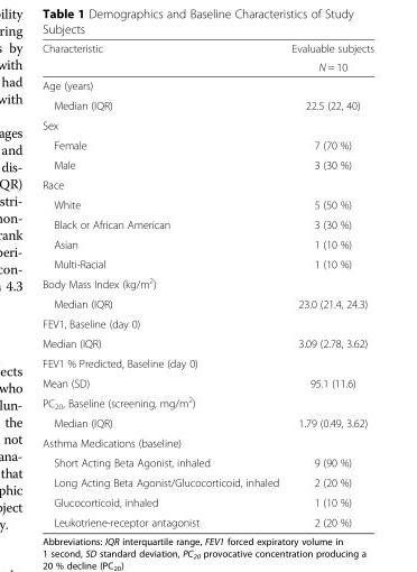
<table><thead><tr><td rowspan="2">Characteristic</td><td rowspan="2">Evaluable subjects N = 10</td></tr><tr></tr></thead><tbody><tr><td colspan="2">Age (years)</td></tr><tr><td>Median (IQR)</td><td>22.5 (22, 40)</td></tr><tr><td colspan="2">Sex</td></tr><tr><td>Female</td><td>7 (70 %)</td></tr><tr><td>Male</td><td>3 (30 %)</td></tr><tr><td colspan="2">Race</td></tr><tr><td>White</td><td>5 (50 %)</td></tr><tr><td>Black or African American</td><td>3 (30 %)</td></tr><tr><td>Asian</td><td>1 (10 %)</td></tr><tr><td>Multi-Racial</td><td>1 (10 %)</td></tr><tr><td colspan="2">Body Mass Index (kg/m<sup>2</sup>)</td></tr><tr><td>Median (IQR)</td><td>23.0 (21.4, 24.3)</td></tr><tr><td colspan="2">FEV1, Baseline (day 0)</td></tr><tr><td>Median (IQR)</td><td>3.09 (2.78, 3.62)</td></tr><tr><td colspan="2">FEV1 % Predicted, Baseline (day 0)</td></tr><tr><td>Mean (SD)</td><td>95.1 (11.6)</td></tr><tr><td colspan="2">PC<sub>20</sub>, Baseline (screening, mg/m<sup>2</sup>)</td></tr><tr><td>Median (IQR)</td><td>1.79 (0.49, 3.62)</td></tr><tr><td colspan="2">Asthma Medications (baseline)</td></tr><tr><td>Short Acting Beta Agonist, inhaled</td><td>9 (90 %)</td></tr><tr><td>Long Acting Beta Agonist/Glucocorticoid, inhaled</td><td>2 (20 %)</td></tr><tr><td>Glucocorticoid, inhaled</td><td>1 (10 %)</td></tr><tr><td>Leukotriene-receptor antagonist</td><td>2 (20 %)</td></tr></tbody></table>